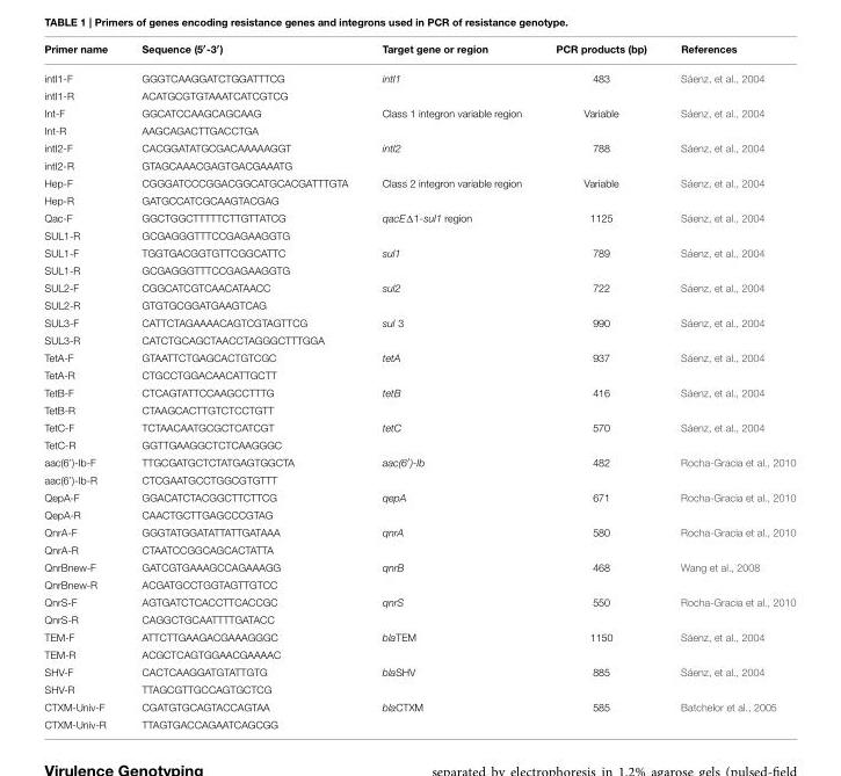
<table><thead><tr><td>Primer name</td><td>Sequence (5′-3′)</td><td>Target gene or region</td><td>PCR products (bp)</td><td>References</td></tr></thead><tbody><tr><td>intI1-F</td><td>GGGTCAAGGATCTGGATTTCG</td><td>intI1</td><td>483</td><td>Sáenz, et al., 2004</td></tr><tr><td>intI1-R</td><td>ACATGCGTGTAAATCATCGTCG</td><td></td><td></td><td></td></tr><tr><td>Int-F</td><td>GGCATCCAAGCAGCAAG</td><td>Class 1 integron variable region</td><td>Variable</td><td>Sáenz, et al., 2004</td></tr><tr><td>Int-R</td><td>AAGCAGACTTGACCTGA</td><td></td><td></td><td></td></tr><tr><td>intI2-F</td><td>CACGGATATGCGACAAAAAGGT</td><td>intI2</td><td>788</td><td>Sáenz, et al., 2004</td></tr><tr><td>intI2-R</td><td>GTAGCAAACGAGTGACGAAATG</td><td></td><td></td><td></td></tr><tr><td>Hep-F</td><td>CGGGATCCCGGACGGCATGCACGATTTGTA</td><td>Class 2 integron variable region</td><td>Variable</td><td>Sáenz, et al., 2004</td></tr><tr><td>Hep-R</td><td>GATGCCATCGCAAGTACGAG</td><td></td><td></td><td></td></tr><tr><td>Qac-F</td><td>GGCTGGCTTTTTCTTGTTATCG</td><td>qacEΔ1-sul1 region</td><td>1125</td><td>Sáenz, et al., 2004</td></tr><tr><td>SUL1-R</td><td>GCGAGGGTTTCCGAGAAGGTG</td><td></td><td></td><td></td></tr><tr><td>SUL1-F</td><td>TGGTGACGGTGTTCGGCATTC</td><td>sul1</td><td>789</td><td>Sáenz, et al., 2004</td></tr><tr><td>SUL1-R</td><td>GCGAGGGTTTCCGAGAAGGTG</td><td></td><td></td><td></td></tr><tr><td>SUL2-F</td><td>CGGCATCGTCAACATAACC</td><td>sul2</td><td>722</td><td>Sáenz, et al., 2004</td></tr><tr><td>SUL2-R</td><td>GTGTGCGGATGAAGTCAG</td><td></td><td></td><td></td></tr><tr><td>SUL3-F</td><td>CATTCTAGAAAACAGTCGTAGTTCG</td><td>sul 3</td><td>990</td><td>Sáenz, et al., 2004</td></tr><tr><td>SUL3-R</td><td>CATCTGCAGCTAACCTAGGGCTTTGGA</td><td></td><td></td><td></td></tr><tr><td>TetA-F</td><td>GTAATTCTGAGCACTGTCGC</td><td>tetA</td><td>937</td><td>Sáenz, et al., 2004</td></tr><tr><td>TetA-R</td><td>CTGCCTGGACAACATTGCTT</td><td></td><td></td><td></td></tr><tr><td>TetB-F</td><td>CTCAGTATTCCAAGCCTTTG</td><td>tetB</td><td>416</td><td>Sáenz, et al., 2004</td></tr><tr><td>TetB-R</td><td>CTAAGCACTTGTCTCCTGTT</td><td></td><td></td><td></td></tr><tr><td>TetC-F</td><td>TCTAACAATGCGCTCATCGT</td><td>tetC</td><td>570</td><td>Sáenz, et al., 2004</td></tr><tr><td>TetC-R</td><td>GGTTGAAGGCTCTCAAGGGC</td><td></td><td></td><td></td></tr><tr><td>aac(6’)-Ib-F</td><td>TTGCGATGCTCTATGAGTGGCTA</td><td>aac(6′)-Ib</td><td>482</td><td>Rocha-Gracia et al., 2010</td></tr><tr><td>aac(6’)-Ib-R</td><td>CTCGAATGCCTGGCGTGTTT</td><td></td><td></td><td></td></tr><tr><td>QepA-F</td><td>GGACATCTACGGCTTCTTCG</td><td>qepA</td><td>671</td><td>Rocha-Gracia et al., 2010</td></tr><tr><td>QepA-R</td><td>CAACTGCTTGAGCCCGTAG</td><td></td><td></td><td></td></tr><tr><td>QnrA-F</td><td>GGGTATGGATATTATTGATAAA</td><td>qnrA</td><td>580</td><td>Rocha-Gracia et al., 2010</td></tr><tr><td>QnrA-R</td><td>CTAATCCGGCAGCACTATTA</td><td></td><td></td><td></td></tr><tr><td>QnrBnew-F</td><td>GATCGTGAAAGCCAGAAAGG</td><td>qnrB</td><td>468</td><td>Wang et al., 2008</td></tr><tr><td>QnrBnew-R</td><td>ACGATGCCTGGTAGTTGTCC</td><td></td><td></td><td></td></tr><tr><td>QnrS-F</td><td>AGTGATCTCACCTTCACCGC</td><td>qnrS</td><td>550</td><td>Rocha-Gracia et al., 2010</td></tr><tr><td>QnrS-R</td><td>CAGGCTGCAATTTTGATACC</td><td></td><td></td><td></td></tr><tr><td>TEM-F</td><td>ATTCTTGAAGACGAAAGGGC</td><td>blaTEM</td><td>1150</td><td>Sáenz, et al., 2004</td></tr><tr><td>TEM-R</td><td>ACGCTCAGTGGAACGAAAAC</td><td></td><td></td><td></td></tr><tr><td>SHV-F</td><td>CACTCAAGGATGTATTGTG</td><td>blaSHV</td><td>885</td><td>Sáenz, et al., 2004</td></tr><tr><td>SHV-R</td><td>TTAGCGTTGCCAGTGCTCG</td><td></td><td></td><td></td></tr><tr><td>CTXM-Univ-F</td><td>CGATGTGCAGTACCAGTAA</td><td>blaCTXM</td><td>585</td><td>Batchelor et al., 2005</td></tr><tr><td>CTXM-Univ-R</td><td>TTAGTGACCAGAATCAGCGG</td><td></td><td></td><td></td></tr></tbody></table>